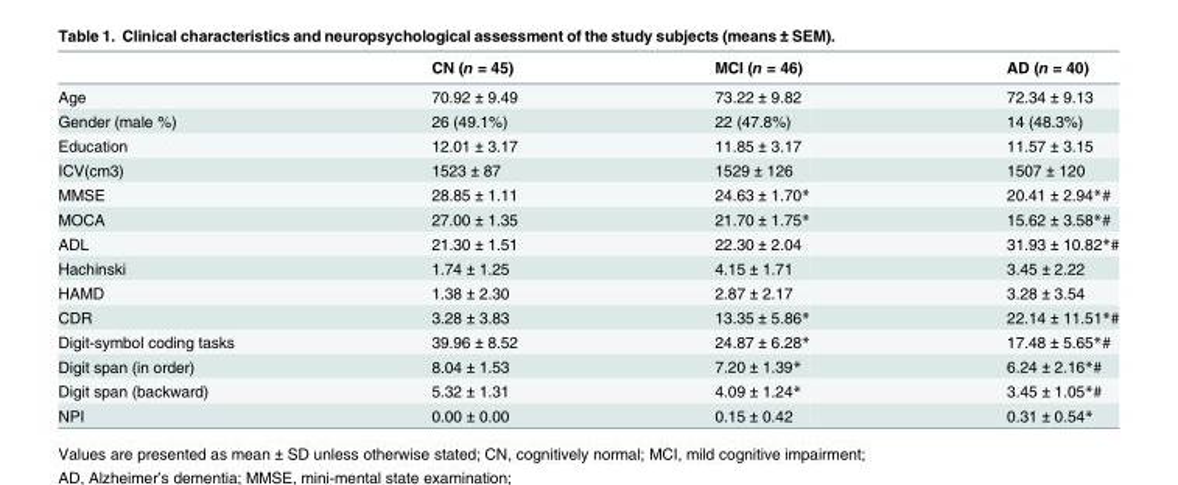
<table><thead><tr><td></td><td>CN (n = 45)</td><td>MCI (n = 46)</td><td>AD (n = 40)</td></tr></thead><tbody><tr><td>Age</td><td>70.92 ± 9.49</td><td>73.22 ± 9.82</td><td>72.34 ± 9.13</td></tr><tr><td>Gender (male %)</td><td>26 (49.1%)</td><td>22 (47.8%)</td><td>14 (48.3%)</td></tr><tr><td>Education</td><td>12.01 ± 3.17</td><td>11.85 ± 3.17</td><td>11.57 ± 3.15</td></tr><tr><td>ICV(cm3)</td><td>1523 ± 87</td><td>1529 ± 126</td><td>1507 ± 120</td></tr><tr><td>MMSE</td><td>28.85 ± 1.11</td><td>24.63 ± 1.70*</td><td>20.41 ± 2.94*#</td></tr><tr><td>MOCA</td><td>27.00 ± 1.35</td><td>21.70 ± 1.75*</td><td>15.62 ± 3.58*#</td></tr><tr><td>ADL</td><td>21.30 ± 1.51</td><td>22.30 ± 2.04</td><td>31.93 ± 10.82*#</td></tr><tr><td>Hachinski</td><td>1.74 ± 1.25</td><td>4.15 ± 1.71</td><td>3.45 ± 2.22</td></tr><tr><td>HAMD</td><td>1.38 ± 2.30</td><td>2.87 ± 2.17</td><td>3.28 ± 3.54</td></tr><tr><td>CDR</td><td>3.28 ± 3.83</td><td>13.35 ± 5.86*</td><td>22.14 ± 11.51*#</td></tr><tr><td>Digit-symbol coding tasks</td><td>39.96 ± 8.52</td><td>24.87 ± 6.28*</td><td>17.48 ± 5.65*#</td></tr><tr><td>Digit span (in order)</td><td>8.04 ± 1.53</td><td>7.20 ± 1.39*</td><td>6.24 ± 2.16*#</td></tr><tr><td>Digit span (backward)</td><td>5.32 ± 1.31</td><td>4.09 ± 1.24*</td><td>3.45 ± 1.05*#</td></tr><tr><td>NPI</td><td>0.00 ± 0.00</td><td>0.15 ± 0.42</td><td>0.31 ± 0.54*</td></tr></tbody></table>